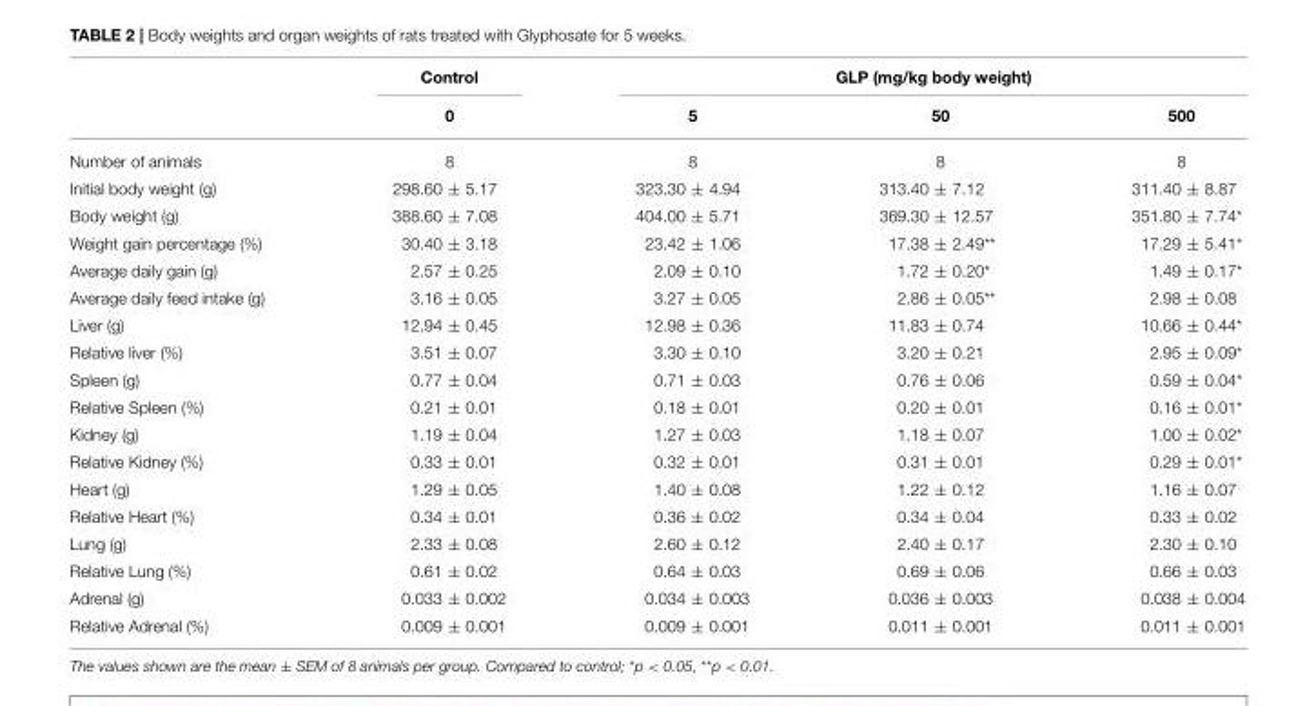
<table><thead><tr><td rowspan="2"></td><td rowspan="2">Control 0</td><td colspan="3">GLP (mg/kg body weight)</td></tr><tr><td>5</td><td>50</td><td>500</td></tr></thead><tbody><tr><td>Number of animals</td><td>8</td><td>8</td><td>8</td><td>8</td></tr><tr><td>Initial body weight (g)</td><td>298.60 ± 5.17</td><td>323.30 ± 4.94</td><td>313.40 ± 7.12</td><td>311.40 ± 8.87</td></tr><tr><td>Body weight (g)</td><td>388.60 ± 7.08</td><td>404.00 ± 5.71</td><td>369.30 ± 12.57</td><td>351.80 ± 7.74*</td></tr><tr><td>Weight gain percentage (%)</td><td>30.40 ± 3.18</td><td>23.42 ± 1.06</td><td>17.38 ± 2.49**</td><td>17.29 ± 5.41*</td></tr><tr><td>Average daily gain (g)</td><td>2.57 ± 0.25</td><td>2.09 ± 0.10</td><td>1.72 ± 0.20*</td><td>1.49 ± 0.17*</td></tr><tr><td>Average daily feed intake (g)</td><td>3.16 ± 0.05</td><td>3.27 ± 0.05</td><td>2.86 ± 0.05**</td><td>2.98 ± 0.08</td></tr><tr><td>Liver (g)</td><td>12.94 ± 0.45</td><td>12.98 ± 0.36</td><td>11.83 ± 0.74</td><td>10.66 ± 0.44*</td></tr><tr><td>Relative liver (%)</td><td>3.51 ± 0.07</td><td>3.30 ± 0.10</td><td>3.20 ± 0.21</td><td>2.95 ± 0.09*</td></tr><tr><td>Spleen (g)</td><td>0.77 ± 0.04</td><td>0.71 ± 0.03</td><td>0.76 ± 0.06</td><td>0.59 ± 0.04*</td></tr><tr><td>Relative Spleen (%)</td><td>0.21 ± 0.01</td><td>0.18 ± 0.01</td><td>0.20 ± 0.01</td><td>0.16 ± 0.01*</td></tr><tr><td>Kidney (g)</td><td>1.19 ± 0.04</td><td>1.27 ± 0.03</td><td>1.18 ± 0.07</td><td>1.00 ± 0.02*</td></tr><tr><td>Relative Kidney (%)</td><td>0.33 ± 0.01</td><td>0.32 ± 0.01</td><td>0.31 ± 0.01</td><td>0.29 ± 0.01*</td></tr><tr><td>Heart (g)</td><td>1.29 ± 0.05</td><td>1.40 ± 0.08</td><td>1.22 ± 0.12</td><td>1.16 ± 0.07</td></tr><tr><td>Relative Heart (%)</td><td>0.34 ± 0.01</td><td>0.36 ± 0.02</td><td>0.34 ± 0.04</td><td>0.33 ± 0.02</td></tr><tr><td>Lung (g)</td><td>2.33 ± 0.08</td><td>2.60 ± 0.12</td><td>2.40 ± 0.17</td><td>2.30 ± 0.10</td></tr><tr><td>Relative Lung (%)</td><td>0.61 ± 0.02</td><td>0.64 ± 0.03</td><td>0.69 ± 0.06</td><td>0.66 ± 0.03</td></tr><tr><td>Adrenal (g)</td><td>0.033 ± 0.002</td><td>0.034 ± 0.003</td><td>0.036 ± 0.003</td><td>0.038 ± 0.004</td></tr><tr><td>Relative Adrenal (%)</td><td>0.009 ± 0.001</td><td>0.009 ± 0.001</td><td>0.011 ± 0.001</td><td>0.011 ± 0.001</td></tr></tbody></table>